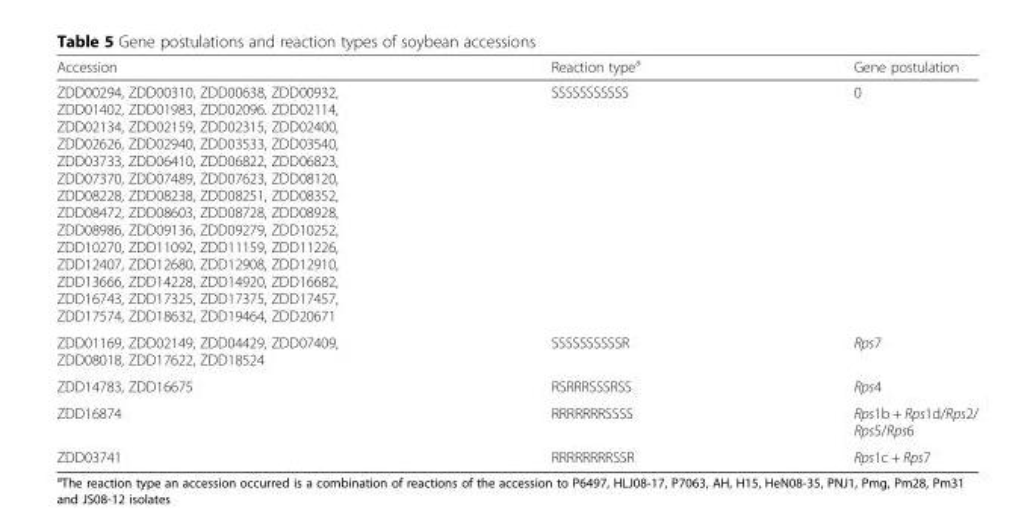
<table><thead><tr><td>Accession</td><td>Reaction type<sup>a</sup></td><td>Gene postulation</td></tr></thead><tbody><tr><td>ZDD00294, ZDD00310, ZDD00638, ZDD00932, ZDD01402, ZDD01983, ZDD02096. ZDD02114, ZDD02134, ZDD02159, ZDD02315, ZDD02400, ZDD02626, ZDD02940, ZDD03533, ZDD03540, ZDD03733, ZDD06410, ZDD06822, ZDD06823, ZDD07370, ZDD07489, ZDD07623, ZDD08120, ZDD08228, ZDD08238, ZDD08251, ZDD08352, ZDD08472, ZDD08603, ZDD08728, ZDD08928, ZDD08986, ZDD09136, ZDD09279, ZDD10252, ZDD10270, ZDD11092, ZDD11159, ZDD11226, ZDD12407, ZDD12680, ZDD12908, ZDD12910, ZDD13666, ZDD14228, ZDD14920, ZDD16682, ZDD16743, ZDD17325, ZDD17375, ZDD17457, ZDD17574, ZDD18632, ZDD19464, ZDD20671</td><td>SSSSSSSSSSS</td><td>0</td></tr><tr><td>ZDD01169, ZDD02149, ZDD04429, ZDD07409, ZDD08018, ZDD17622, ZDD18524</td><td>SSSSSSSSSSR</td><td>Rps7</td></tr><tr><td>ZDD14783, ZDD16675</td><td>RSRRRSSSRSS</td><td>Rps4</td></tr><tr><td>ZDD16874</td><td>RRRRRRRSSSS</td><td>Rps1b + Rps1d/Rps2/ Rps5/Rps6</td></tr><tr><td>ZDD03741</td><td>RRRRRRRRSSR</td><td>Rps1c + Rps7</td></tr></tbody></table>